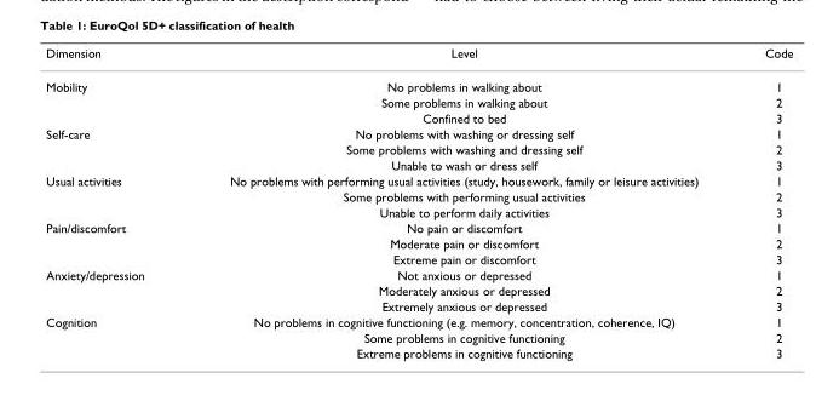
<table><thead><tr><td>Dimension</td><td>Level</td><td>Code</td></tr></thead><tbody><tr><td rowspan="3">Mobility</td><td>No problems in walking about</td><td>1</td></tr><tr><td>Some problems in walking about</td><td>2</td></tr><tr><td>Confined to bed</td><td>3</td></tr><tr><td rowspan="3">Self-care</td><td>No problems with washing or dressing self</td><td>1</td></tr><tr><td>Some problems with washing and dressing self</td><td>2</td></tr><tr><td>Unable to wash or dress self</td><td>3</td></tr><tr><td rowspan="3">Usual activities</td><td>No problems with performing usual activities (study, housework, family or leisure activities)</td><td>1</td></tr><tr><td>Some problems with performing usual activities</td><td>2</td></tr><tr><td>Unable to perform daily activities</td><td>3</td></tr><tr><td rowspan="3">Pain/discomfort</td><td>No pain or discomfort</td><td>1</td></tr><tr><td>Moderate pain or discomfort</td><td>2</td></tr><tr><td>Extreme pain or discomfort</td><td>3</td></tr><tr><td rowspan="3">Anxiety/depression</td><td>Not anxious or depressed</td><td>1</td></tr><tr><td>Moderately anxious or depressed</td><td>2</td></tr><tr><td>Extremely anxious or depressed</td><td>3</td></tr><tr><td rowspan="3">Cognition</td><td>No problems in cognitive functioning (e.g. memory, concentration, coherence, IQ)</td><td>1</td></tr><tr><td>Some problems in cognitive functioning</td><td>2</td></tr><tr><td>Extreme problems in cognitive functioning</td><td>3</td></tr></tbody></table>